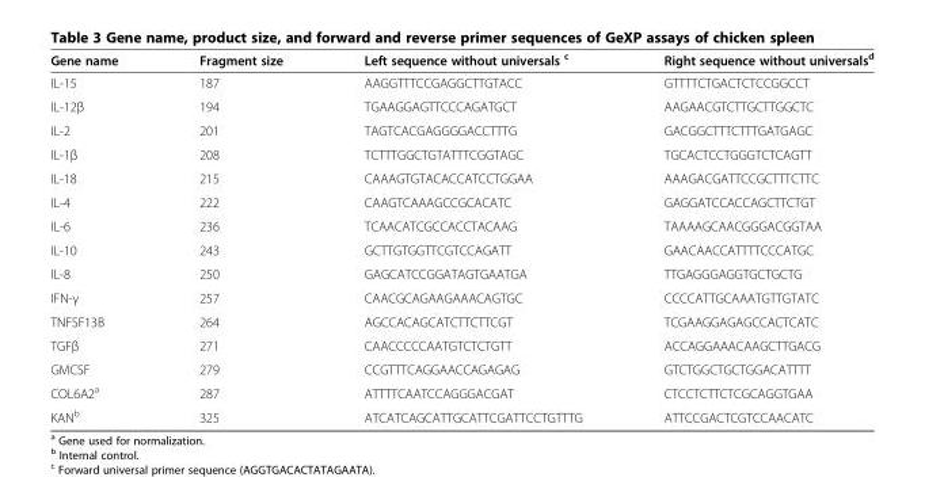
<table><thead><tr><td>Gene name</td><td>Fragment size</td><td>Left sequence without universals <sup>c</sup></td><td>Right sequence without universals<sup>d</sup></td></tr></thead><tbody><tr><td>IL-15</td><td>187</td><td>AAGGTTTCCGAGGCTTGTACC</td><td>GTTTTCTGACTCTCCGGCCT</td></tr><tr><td>IL-12β</td><td>194</td><td>TGAAGGAGTTCCCAGATGCT</td><td>AAGAACGTCTTGCTTGGCTC</td></tr><tr><td>IL-2</td><td>201</td><td>TAGTCACGAGGGGACCTTTG</td><td>GACGGCTTTCTTTGATGAGC</td></tr><tr><td>IL-1β</td><td>208</td><td>TCTTTGGCTGTATTTCGGTAGC</td><td>TGCACTCCTGGGTCTCAGTT</td></tr><tr><td>IL-18</td><td>215</td><td>CAAAGTGTACACCATCCTGGAA</td><td>AAAGACGATTCCGCTTTCTTC</td></tr><tr><td>IL-4</td><td>222</td><td>CAAGTCAAAGCCGCACATC</td><td>GAGGATCCACCAGCTTCTGT</td></tr><tr><td>IL-6</td><td>236</td><td>TCAACATCGCCACCTACAAG</td><td>TAAAAGCAACGGGACGGTAA</td></tr><tr><td>IL-10</td><td>243</td><td>GCTTGTGGTTCGTCCAGATT</td><td>GAACAACCATTTTCCCATGC</td></tr><tr><td>IL-8</td><td>250</td><td>GAGCATCCGGATAGTGAATGA</td><td>TTGAGGGAGGTGCTGCTG</td></tr><tr><td>IFN-γ</td><td>257</td><td>CAACGCAGAAGAAACAGTGC</td><td>CCCCATTGCAAATGTTGTATC</td></tr><tr><td>TNFSF13B</td><td>264</td><td>AGCCACAGCATCTTCTTCGT</td><td>TCGAAGGAGAGCCACTCATC</td></tr><tr><td>TGFβ</td><td>271</td><td>CAACCCCCAATGTCTCTGTT</td><td>ACCAGGAAACAAGCTTGACG</td></tr><tr><td>GMCSF</td><td>279</td><td>CCGTTTCAGGAACCAGAGAG</td><td>GTCTGGCTGCTGGACATTTT</td></tr><tr><td>COL6A2<sup>a</sup></td><td>287</td><td>ATTTTCAATCCAGGGACGAT</td><td>CTCCTCTTCTCGCAGGTGAA</td></tr><tr><td>KAN<sup>b</sup></td><td>325</td><td>ATCATCAGCATTGCATTCGATTCCTGTTTG</td><td>ATTCCGACTCGTCCAACATC</td></tr></tbody></table>